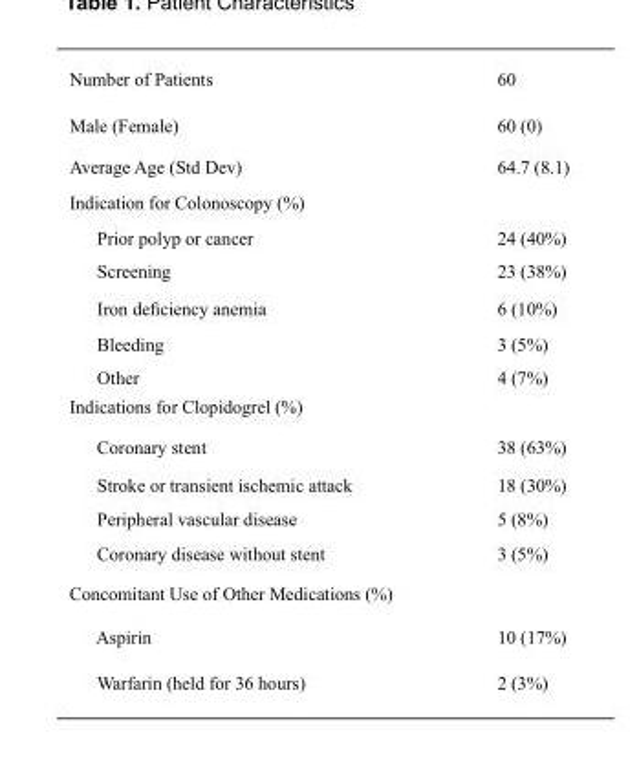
<table><tbody><tr><td>Number of Patients</td><td>60</td></tr><tr><td>Male (Female)</td><td>60 (0)</td></tr><tr><td>Average Age (Std Dev)</td><td>64.7 (8.1)</td></tr><tr><td colspan="2">Indication for Colonoscopy (%)</td></tr><tr><td>Prior polyp or cancer</td><td>24 (40%)</td></tr><tr><td>Screening</td><td>23 (38%)</td></tr><tr><td>Iron deficiency anemia</td><td>6 (10%)</td></tr><tr><td>Bleeding</td><td>3 (5%)</td></tr><tr><td>Other</td><td>4 (7%)</td></tr><tr><td colspan="2">Indications for Clopidogrel (%)</td></tr><tr><td>Coronary stent</td><td>38 (63%)</td></tr><tr><td>Stroke or transient ischemic attack</td><td>18 (30%)</td></tr><tr><td>Peripheral vascular disease</td><td>5 (8%)</td></tr><tr><td>Coronary disease without stent</td><td>3 (5%)</td></tr><tr><td colspan="2">Concomitant Use of Other Medications (%)</td></tr><tr><td>Aspirin</td><td>10 (17%)</td></tr><tr><td>Warfarin (held for 36 hours)</td><td>2 (3%)</td></tr></tbody></table>